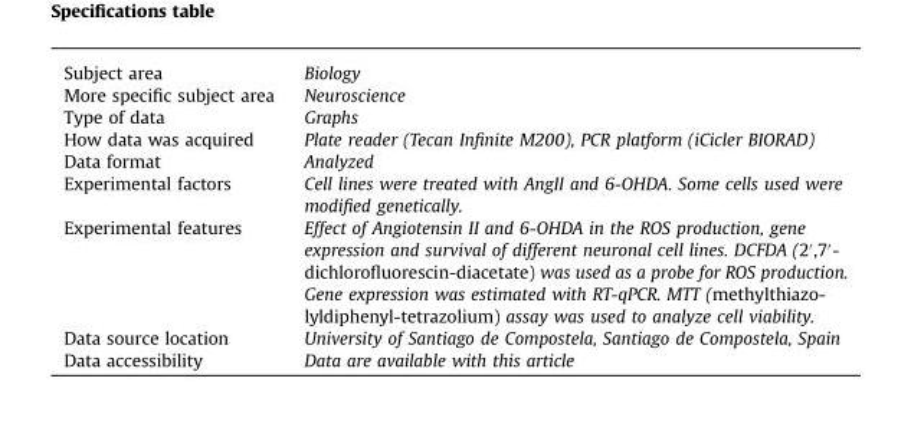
<table><tbody><tr><td>Subject area</td><td>Biology</td></tr><tr><td>More specific subject area</td><td>Neuroscience</td></tr><tr><td>Type of data</td><td>Graphs</td></tr><tr><td>How data was acquired</td><td>Plate reader (Tecan Infinite M200), PCR platform (iCicler BIORAD)</td></tr><tr><td>Data format</td><td>Analyzed</td></tr><tr><td>Experimental factors</td><td>Cell lines were treated with AngII and 6-OHDA. Some cells used were modified genetically.</td></tr><tr><td>Experimental features</td><td>Effect of Angiotensin II and 6-OHDA in the ROS production, gene expression and survival of different neuronal cell lines. DCFDA (20,70- dichlorofluorescin-diacetate) was used as a probe for ROS production. Gene expression was estimated with RT-qPCR. MTT (methylthiazo- lyldiphenyl-tetrazolium) assay was used to analyze cell viability.</td></tr><tr><td>Data source location</td><td>University of Santiago de Compostela, Santiago de Compostela, Spain</td></tr><tr><td>Data accessibility</td><td>Data are available with this article</td></tr></tbody></table>